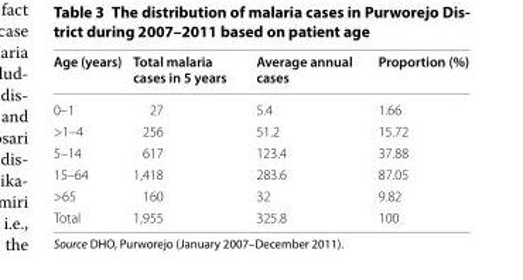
<table><thead><tr><td>Age (years)</td><td>Total malaria cases in 5 years</td><td>Average annual cases</td><td>Proportion (%)</td></tr></thead><tbody><tr><td>0–1</td><td>27</td><td>5.4</td><td>1.66</td></tr><tr><td>&gt;1–4</td><td>256</td><td>51.2</td><td>15.72</td></tr><tr><td>5–14</td><td>617</td><td>123.4</td><td>37.88</td></tr><tr><td>15–64</td><td>1,418</td><td>283.6</td><td>87.05</td></tr><tr><td>&gt;65</td><td>160</td><td>32</td><td>9.82</td></tr><tr><td>Total</td><td>1,955</td><td>325.8</td><td>100</td></tr></tbody></table>